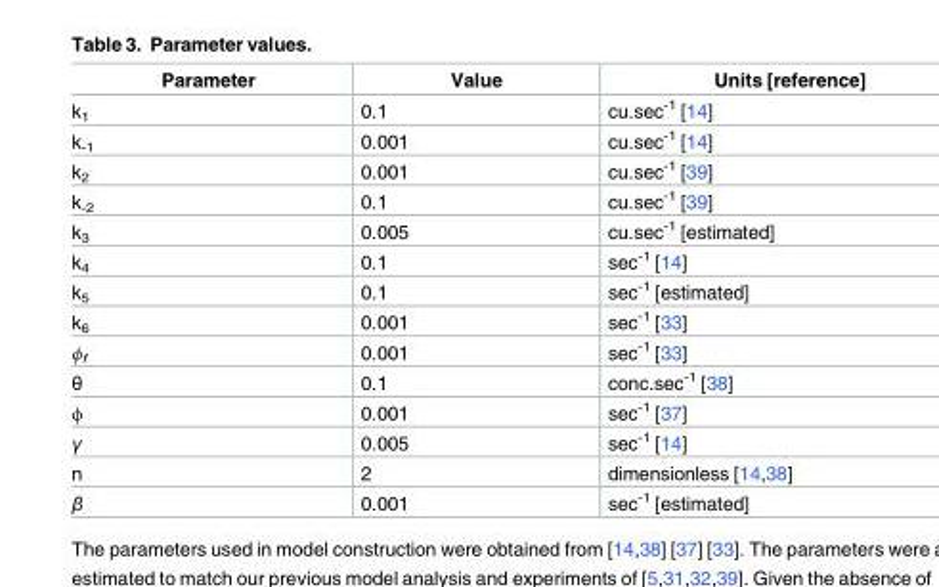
<table><thead><tr><td>Parameter</td><td>Value</td><td>Units [reference]</td></tr></thead><tbody><tr><td>k<sub>1</sub></td><td>0.1</td><td>cu.sec<sup>-1</sup> [14]</td></tr><tr><td>k<sub>-1</sub></td><td>0.001</td><td>cu.sec<sup>-1</sup> [14]</td></tr><tr><td>k<sub>2</sub></td><td>0.001</td><td>cu.sec<sup>-1</sup> [39]</td></tr><tr><td>k<sub>-2</sub></td><td>0.1</td><td>cu.sec<sup>-1</sup> [39]</td></tr><tr><td>k<sub>3</sub></td><td>0.005</td><td>cu.sec<sup>-1</sup> [estimated]</td></tr><tr><td>k<sub>4</sub></td><td>0.1</td><td>sec<sup>-1</sup> [14]</td></tr><tr><td>k<sub>5</sub></td><td>0.1</td><td>sec<sup>-1</sup> [estimated]</td></tr><tr><td>k<sub>6</sub></td><td>0.001</td><td>sec<sup>-1</sup> [33]</td></tr><tr><td>ϕ<sub>f</sub></td><td>0.001</td><td>sec<sup>-1</sup> [33]</td></tr><tr><td>θ</td><td>0.1</td><td>conc.sec<sup>-1</sup> [38]</td></tr><tr><td>ϕ</td><td>0.001</td><td>sec<sup>-1</sup> [37]</td></tr><tr><td>γ</td><td>0.005</td><td>sec<sup>-1</sup> [14]</td></tr><tr><td>n</td><td>2</td><td>dimensionless [14,38]</td></tr><tr><td>β</td><td>0.001</td><td>sec<sup>-1</sup> [estimated]</td></tr></tbody></table>